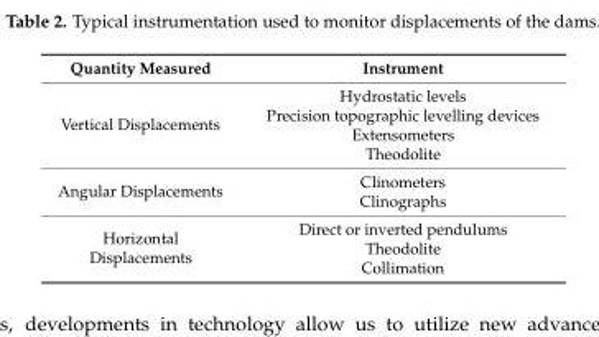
<table><thead><tr><td>Quantity Measured</td><td>Instrument</td></tr></thead><tbody><tr><td rowspan="4">Vertical Displacements</td><td>Hydrostatic levels</td></tr><tr><td>Precision topographic levelling devices</td></tr><tr><td>Extensometers</td></tr><tr><td>Theodolite</td></tr><tr><td rowspan="2">Angular Displacements</td><td>Clinometers</td></tr><tr><td>Clinographs</td></tr><tr><td rowspan="3">Horizontal Displacements</td><td>Direct or inverted pendulums</td></tr><tr><td>Theodolite</td></tr><tr><td>Collimation</td></tr></tbody></table>